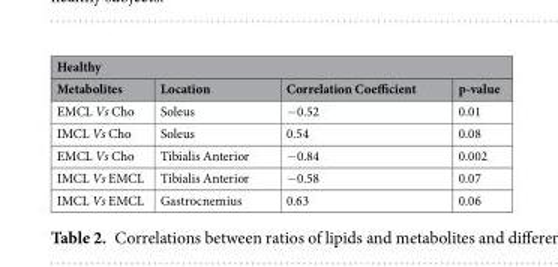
<table><thead><tr><td colspan="4">Healthy</td></tr><tr><td>Metabolites</td><td>Location</td><td>Correlation Coefficient</td><td>p-value</td></tr></thead><tbody><tr><td>EMCL Vs Cho</td><td>Soleus</td><td>−0.52</td><td>0.01</td></tr><tr><td>IMCL Vs Cho</td><td>Soleus</td><td>0.54</td><td>0.08</td></tr><tr><td>EMCL Vs Cho</td><td>Tibialis Anterior</td><td>−0.84</td><td>0.002</td></tr><tr><td>IMCL Vs EMCL</td><td>Tibialis Anterior</td><td>−0.58</td><td>0.07</td></tr><tr><td>IMCL Vs EMCL</td><td>Gastrocnemius</td><td>0.63</td><td>0.06</td></tr></tbody></table>